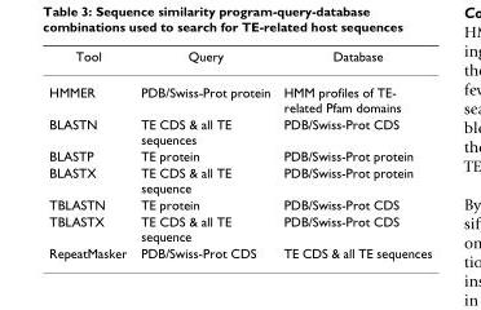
<table><thead><tr><td>Tool</td><td>Query</td><td>Database</td></tr></thead><tbody><tr><td>HMMER</td><td>PDB/Swiss-Prot protein</td><td>HMM profiles of TE- related Pfam domains</td></tr><tr><td>BLASTN</td><td>TE CDS &amp; all TE sequences</td><td>PDB/Swiss-Prot CDS</td></tr><tr><td>BLASTP</td><td>TE protein</td><td>PDB/Swiss-Prot protein</td></tr><tr><td>BLASTX</td><td>TE CDS &amp; all TE sequence</td><td>PDB/Swiss-Prot protein</td></tr><tr><td>TBLASTN</td><td>TE protein</td><td>PDB/Swiss-Prot CDS</td></tr><tr><td>TBLASTX</td><td>TE CDS &amp; all TE sequence</td><td>PDB/Swiss-Prot CDS</td></tr><tr><td>RepeatMasker</td><td>PDB/Swiss-Prot CDS</td><td>TE CDS &amp; all TE sequences</td></tr></tbody></table>